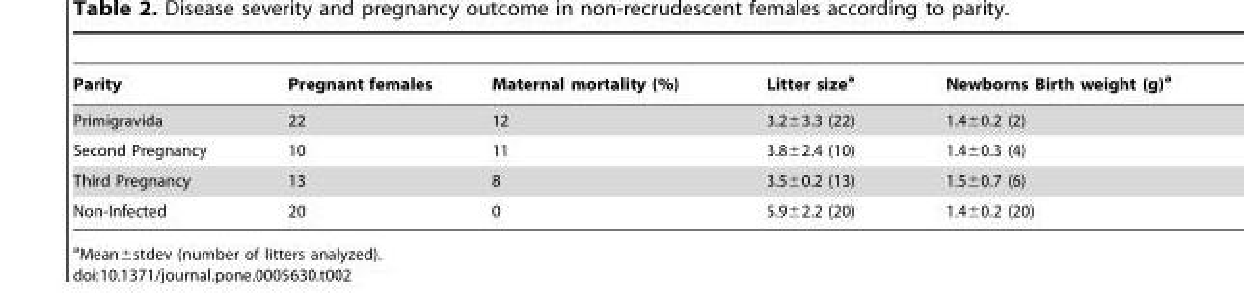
<table><thead><tr><td>Parity</td><td>Pregnant females</td><td>Maternal mortality (%)</td><td>Litter size<sup>a</sup></td><td>Newborns Birth weight (g)<sup>a</sup></td></tr></thead><tbody><tr><td>Primigravida</td><td>22</td><td>12</td><td>3.2±3.3 (22)</td><td>1.4±0.2 (2)</td></tr><tr><td>Second Pregnancy</td><td>10</td><td>11</td><td>3.8±2.4 (10)</td><td>1.4±0.3 (4)</td></tr><tr><td>Third Pregnancy</td><td>13</td><td>8</td><td>3.5±0.2 (13)</td><td>1.5±0.7 (6)</td></tr><tr><td>Non-Infected</td><td>20</td><td>0</td><td>5.9±2.2 (20)</td><td>1.4±0.2 (20)</td></tr></tbody></table>